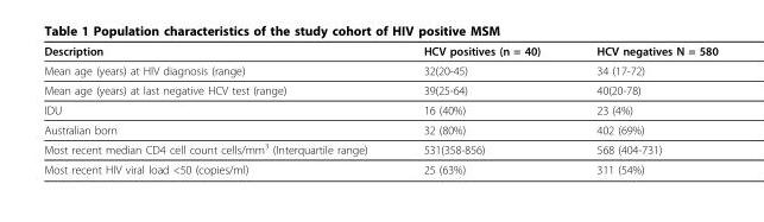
<table><thead><tr><td>Description</td><td>HCV positives (n = 40)</td><td>HCV negatives N = 580</td></tr></thead><tbody><tr><td>Mean age (years) at HIV diagnosis (range)</td><td>32(20-45)</td><td>34 (17-72)</td></tr><tr><td>Mean age (years) at last negative HCV test (range)</td><td>39(25-64)</td><td>40(20-78)</td></tr><tr><td>IDU</td><td>16 (40%)</td><td>23 (4%)</td></tr><tr><td>Australian born</td><td>32 (80%)</td><td>402 (69%)</td></tr><tr><td>Most recent median CD4 cell count cells/mm<sup>3</sup> (Interquartile range)</td><td>531(358-856)</td><td>568 (404-731)</td></tr><tr><td>Most recent HIV viral load &lt;50 (copies/ml)</td><td>25 (63%)</td><td>311 (54%)</td></tr></tbody></table>